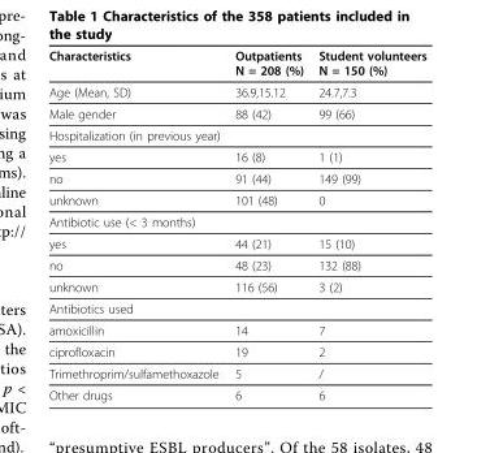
<table><thead><tr><td>Characteristics</td><td>Outpatients N = 208 (%)</td><td>Student volunteers N = 150 (%)</td></tr></thead><tbody><tr><td>Age (Mean, SD)</td><td>36.9,15.12</td><td>24.7,7.3</td></tr><tr><td>Male gender</td><td>88 (42)</td><td>99 (66)</td></tr><tr><td colspan="3">Hospitalization (in previous year)</td></tr><tr><td>yes</td><td>16 (8)</td><td>1 (1)</td></tr><tr><td>no</td><td>91 (44)</td><td>149 (99)</td></tr><tr><td>unknown</td><td>101 (48)</td><td>0</td></tr><tr><td colspan="3">Antibiotic use (&lt; 3 months)</td></tr><tr><td>yes</td><td>44 (21)</td><td>15 (10)</td></tr><tr><td>no</td><td>48 (23)</td><td>132 (88)</td></tr><tr><td>unknown</td><td>116 (56)</td><td>3 (2)</td></tr><tr><td colspan="3">Antibiotics used</td></tr><tr><td>amoxicillin</td><td>14</td><td>7</td></tr><tr><td>ciprofloxacin</td><td>19</td><td>2</td></tr><tr><td>Trimethroprim/sulfamethoxazole</td><td>5</td><td>/</td></tr><tr><td>Other drugs</td><td>6</td><td>6</td></tr></tbody></table>